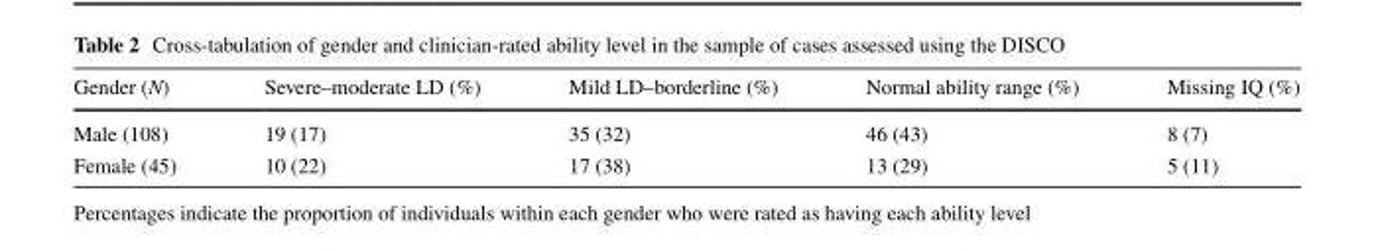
<table><thead><tr><td>Gender (N)</td><td>Severe–moderate LD (%)</td><td>Mild LD–borderline (%)</td><td>Normal ability range (%)</td><td>Missing IQ (%)</td></tr></thead><tbody><tr><td>Male (108)</td><td>19 (17)</td><td>35 (32)</td><td>46 (43)</td><td>8 (7)</td></tr><tr><td>Female (45)</td><td>10 (22)</td><td>17 (38)</td><td>13 (29)</td><td>5 (11)</td></tr></tbody></table>